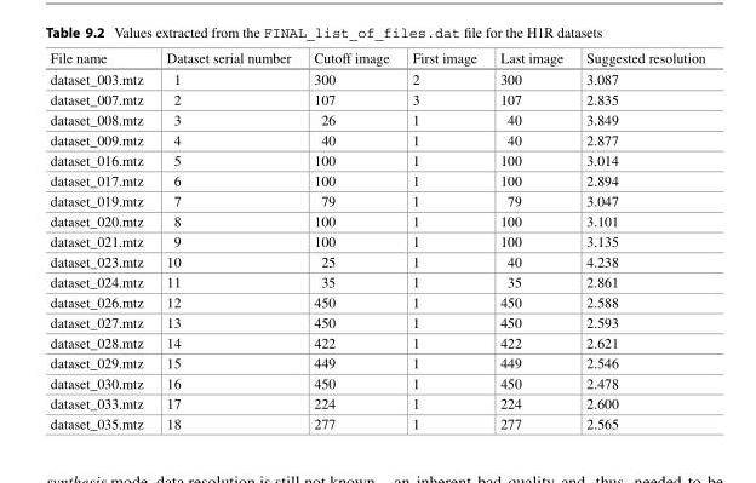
<table><thead><tr><td>File name</td><td>Dataset serial number</td><td>Cutoff image</td><td>First image</td><td>Last image</td><td>Suggested resolution</td></tr></thead><tbody><tr><td>dataset_003.mtz</td><td>1</td><td>300</td><td>2</td><td>300</td><td>3.087</td></tr><tr><td>dataset_007.mtz</td><td>2</td><td>107</td><td>3</td><td>107</td><td>2.835</td></tr><tr><td>dataset_008.mtz</td><td>3</td><td>26</td><td>1</td><td>40</td><td>3.849</td></tr><tr><td>dataset_009.mtz</td><td>4</td><td>40</td><td>1</td><td>40</td><td>2.877</td></tr><tr><td>dataset_016.mtz</td><td>5</td><td>100</td><td>1</td><td>100</td><td>3.014</td></tr><tr><td>dataset_017.mtz</td><td>6</td><td>100</td><td>1</td><td>100</td><td>2.894</td></tr><tr><td>dataset_019.mtz</td><td>7</td><td>79</td><td>1</td><td>79</td><td>3.047</td></tr><tr><td>dataset_020.mtz</td><td>8</td><td>100</td><td>1</td><td>100</td><td>3.101</td></tr><tr><td>dataset_021.mtz</td><td>9</td><td>100</td><td>1</td><td>100</td><td>3.135</td></tr><tr><td>dataset_023.mtz</td><td>10</td><td>25</td><td>1</td><td>40</td><td>4.238</td></tr><tr><td>dataset_024.mtz</td><td>11</td><td>35</td><td>1</td><td>35</td><td>2.861</td></tr><tr><td>dataset_026.mtz</td><td>12</td><td>450</td><td>1</td><td>450</td><td>2.588</td></tr><tr><td>dataset_027.mtz</td><td>13</td><td>450</td><td>1</td><td>450</td><td>2.593</td></tr><tr><td>dataset_028.mtz</td><td>14</td><td>422</td><td>1</td><td>422</td><td>2.621</td></tr><tr><td>dataset_029.mtz</td><td>15</td><td>449</td><td>1</td><td>449</td><td>2.546</td></tr><tr><td>dataset_030.mtz</td><td>16</td><td>450</td><td>1</td><td>450</td><td>2.478</td></tr><tr><td>dataset_033.mtz</td><td>17</td><td>224</td><td>1</td><td>224</td><td>2.600</td></tr><tr><td>dataset_035.mtz</td><td>18</td><td>277</td><td>1</td><td>277</td><td>2.565</td></tr></tbody></table>